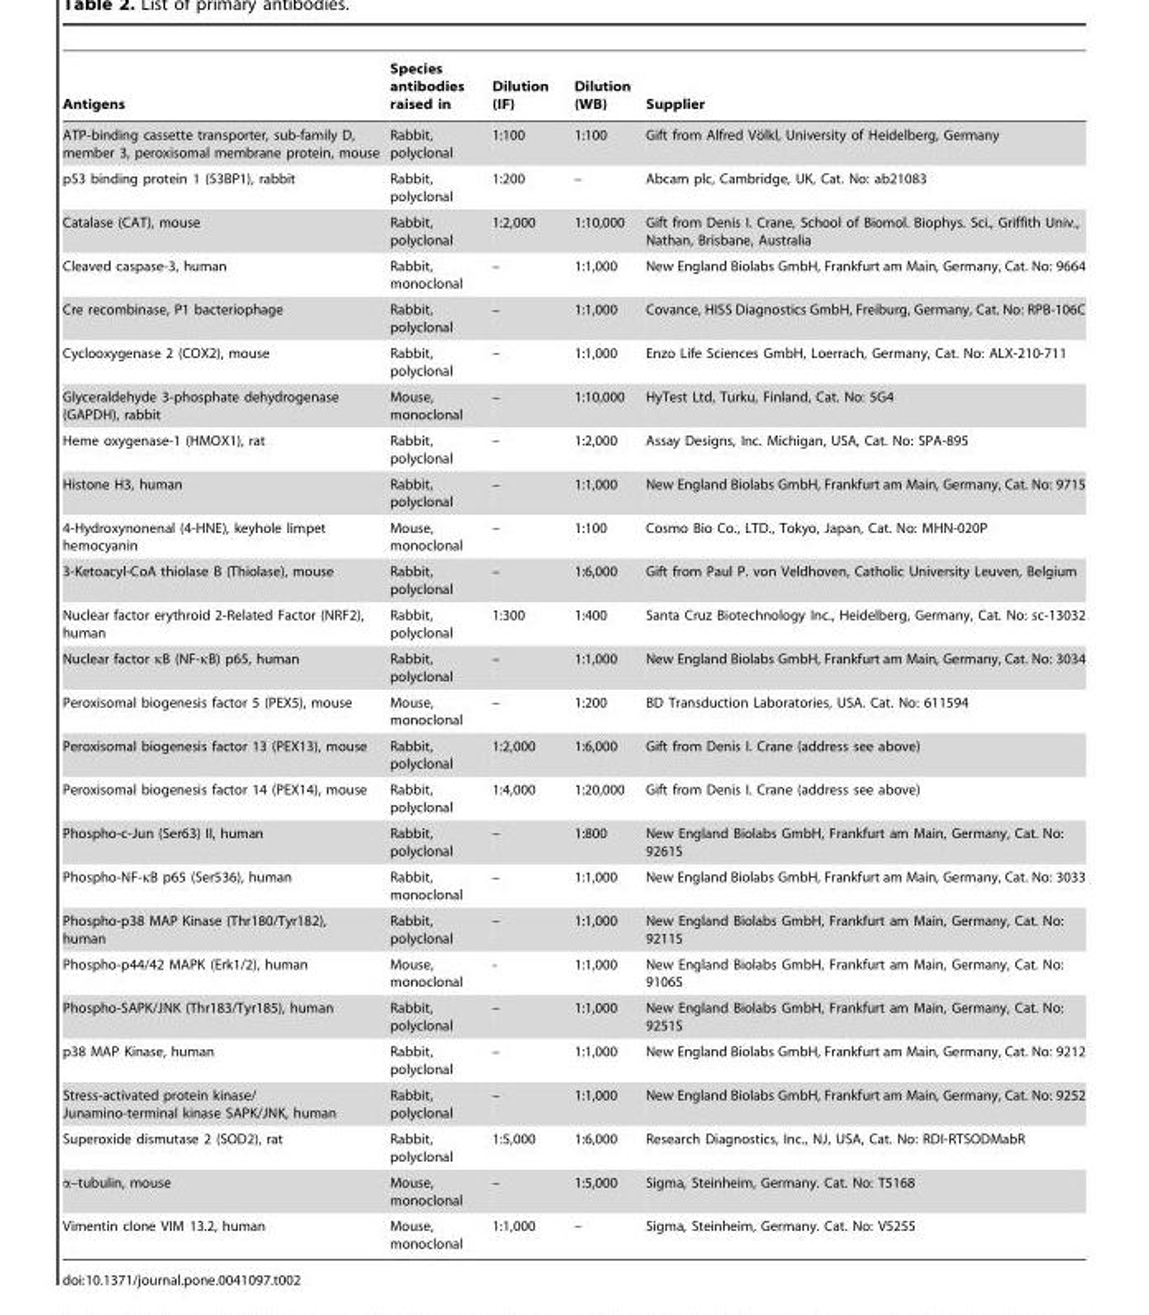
<table><thead><tr><td>Antigens</td><td>Species antibodies raised in</td><td>Dilution (IF)</td><td>Dilution (WB)</td><td>Supplier</td></tr></thead><tbody><tr><td>ATP-binding cassette transporter, sub-family D, member 3, peroxisomal membrane protein, mouse</td><td>Rabbit, polyclonal</td><td>1:100</td><td>1:100</td><td>Gift from Alfred Vo¨lkl, University of Heidelberg, Germany</td></tr><tr><td>p53 binding protein 1 (53BP1), rabbit</td><td>Rabbit, polyclonal</td><td>1:200</td><td>–</td><td>Abcam plc, Cambridge, UK, Cat. No: ab21083</td></tr><tr><td>Catalase (CAT), mouse</td><td>Rabbit, polyclonal</td><td>1:2,000</td><td>1:10,000</td><td>Gift from Denis I. Crane, School of Biomol. Biophys. Sci., Griffith Univ., Nathan, Brisbane, Australia</td></tr><tr><td>Cleaved caspase-3, human</td><td>Rabbit, monoclonal</td><td>–</td><td>1:1,000</td><td>New England Biolabs GmbH, Frankfurt am Main, Germany, Cat. No: 9664</td></tr><tr><td>Cre recombinase, P1 bacteriophage</td><td>Rabbit, polyclonal</td><td>–</td><td>1:1,000</td><td>Covance, HISS Diagnostics GmbH, Freiburg, Germany, Cat. No: RPB-106C</td></tr><tr><td>Cyclooxygenase 2 (COX2), mouse</td><td>Rabbit, polyclonal</td><td>–</td><td>1:1,000</td><td>Enzo Life Sciences GmbH, Loerrach, Germany, Cat. No: ALX-210-711</td></tr><tr><td>Glyceraldehyde 3-phosphate dehydrogenase (GAPDH), rabbit</td><td>Mouse, monoclonal</td><td>–</td><td>1:10,000</td><td>HyTest Ltd, Turku, Finland, Cat. No: 5G4</td></tr><tr><td>Heme oxygenase-1 (HMOX1), rat</td><td>Rabbit, polyclonal</td><td>–</td><td>1:2,000</td><td>Assay Designs, Inc. Michigan, USA, Cat. No: SPA-895</td></tr><tr><td>Histone H3, human</td><td>Rabbit, polyclonal</td><td>–</td><td>1:1,000</td><td>New England Biolabs GmbH, Frankfurt am Main, Germany, Cat. No: 9715</td></tr><tr><td>4-Hydroxynonenal (4-HNE), keyhole limpet hemocyanin</td><td>Mouse, monoclonal</td><td>–</td><td>1:100</td><td>Cosmo Bio Co., LTD., Tokyo, Japan, Cat. No: MHN-020P</td></tr><tr><td>3-Ketoacyl-CoA thiolase B (Thiolase), mouse</td><td>Rabbit, polyclonal</td><td>–</td><td>1:6,000</td><td>Gift from Paul P. von Veldhoven, Catholic University Leuven, Belgium</td></tr><tr><td>Nuclear factor erythroid 2-Related Factor (NRF2), human</td><td>Rabbit, polyclonal</td><td>1:300</td><td>1:400</td><td>Santa Cruz Biotechnology Inc., Heidelberg, Germany, Cat. No: sc-13032</td></tr><tr><td>Nuclear factor κB (NF-κB) p65, human</td><td>Rabbit, polyclonal</td><td>–</td><td>1:1,000</td><td>New England Biolabs GmbH, Frankfurt am Main, Germany, Cat. No: 3034</td></tr><tr><td>Peroxisomal biogenesis factor 5 (PEX5), mouse</td><td>Mouse, monoclonal</td><td>–</td><td>1:200</td><td>BD Transduction Laboratories, USA. Cat. No: 611594</td></tr><tr><td>Peroxisomal biogenesis factor 13 (PEX13), mouse</td><td>Rabbit, polyclonal</td><td>1:2,000</td><td>1:6,000</td><td>Gift from Denis I. Crane (address see above)</td></tr><tr><td>Peroxisomal biogenesis factor 14 (PEX14), mouse</td><td>Rabbit, polyclonal</td><td>1:4,000</td><td>1:20,000</td><td>Gift from Denis I. Crane (address see above)</td></tr><tr><td>Phospho-c-Jun (Ser63) II, human</td><td>Rabbit, polyclonal</td><td>–</td><td>1:800</td><td>New England Biolabs GmbH, Frankfurt am Main, Germany, Cat. No: 9261S</td></tr><tr><td>Phospho-NF-κB p65 (Ser536), human</td><td>Rabbit, monoclonal</td><td>–</td><td>1:1,000</td><td>New England Biolabs GmbH, Frankfurt am Main, Germany, Cat. No: 3033</td></tr><tr><td>Phospho-p38 MAP Kinase (Thr180/Tyr182), human</td><td>Rabbit, polyclonal</td><td>–</td><td>1:1,000</td><td>New England Biolabs GmbH, Frankfurt am Main, Germany, Cat. No: 9211S</td></tr><tr><td>Phospho-p44/42 MAPK (Erk1/2), human</td><td>Mouse, monoclonal</td><td>-</td><td>1:1,000</td><td>New England Biolabs GmbH, Frankfurt am Main, Germany, Cat. No: 9106S</td></tr><tr><td>Phospho-SAPK/JNK (Thr183/Tyr185), human</td><td>Rabbit, polyclonal</td><td>–</td><td>1:1,000</td><td>New England Biolabs GmbH, Frankfurt am Main, Germany, Cat. No: 9251S</td></tr><tr><td>p38 MAP Kinase, human</td><td>Rabbit, polyclonal</td><td>–</td><td>1:1,000</td><td>New England Biolabs GmbH, Frankfurt am Main, Germany, Cat. No: 9212</td></tr><tr><td>Stress-activated protein kinase/ Junamino-terminal kinase SAPK/JNK, human</td><td>Rabbit, polyclonal</td><td>–</td><td>1:1,000</td><td>New England Biolabs GmbH, Frankfurt am Main, Germany, Cat. No: 9252</td></tr><tr><td>Superoxide dismutase 2 (SOD2), rat</td><td>Rabbit, polyclonal</td><td>1:5,000</td><td>1:6,000</td><td>Research Diagnostics, Inc., NJ, USA, Cat. No: RDI-RTSODMabR</td></tr><tr><td>α–tubulin, mouse</td><td>Mouse, monoclonal</td><td>–</td><td>1:5,000</td><td>Sigma, Steinheim, Germany. Cat. No: T5168</td></tr><tr><td>Vimentin clone VIM 13.2, human</td><td>Mouse, monoclonal</td><td>1:1,000</td><td>–</td><td>Sigma, Steinheim, Germany. Cat. No: V5255</td></tr></tbody></table>